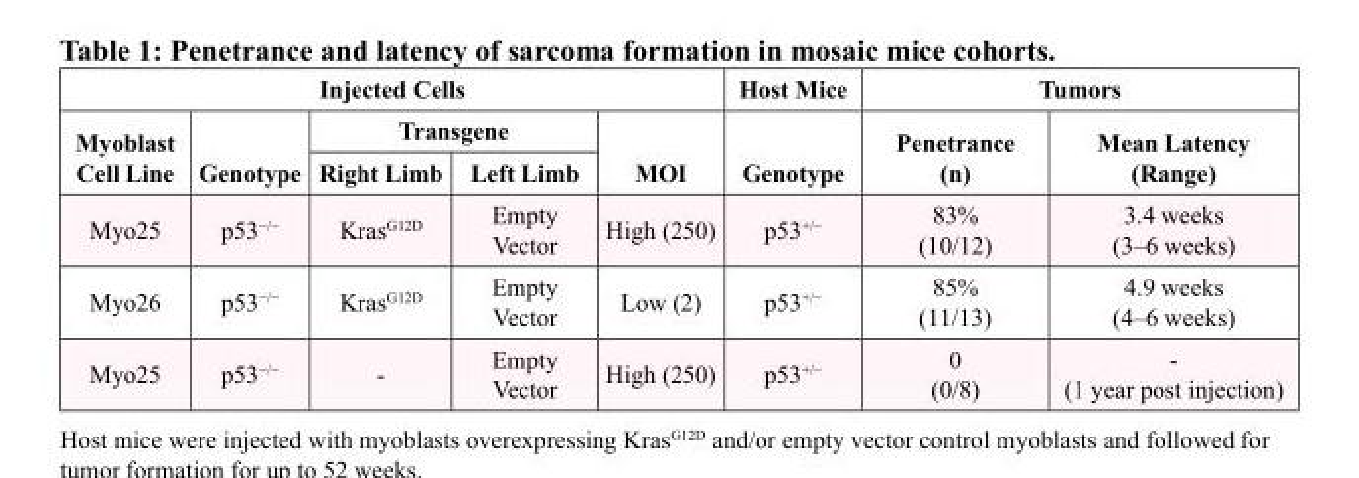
<table><thead><tr><td colspan="5">Injected Cells</td><td rowspan="3">Host Mice Genotype</td><td colspan="2">Tumors</td></tr><tr><td rowspan="2">Myoblast Cell Line</td><td rowspan="2">Genotype</td><td colspan="2">Transgene</td><td rowspan="2">MOI</td><td rowspan="2">Penetrance (n)</td><td rowspan="2">Mean Latency (Range)</td></tr><tr><td>Right Limb</td><td>Left Limb</td></tr></thead><tbody><tr><td>Myo25</td><td>p53<sup>−/−</sup></td><td>Kras<sup>G12D</sup></td><td>Empty Vector</td><td>High (250)</td><td>p53<sup>+/−</sup></td><td>83% (10/12)</td><td>3.4 weeks (3–6 weeks)</td></tr><tr><td>Myo26</td><td>p53<sup>−/−</sup></td><td>Kras<sup>G12D</sup></td><td>Empty Vector</td><td>Low (2)</td><td>p53<sup>+/−</sup></td><td>85% (11/13)</td><td>4.9 weeks (4–6 weeks)</td></tr><tr><td>Myo25</td><td>p53<sup>−/−</sup></td><td>-</td><td>Empty Vector</td><td>High (250)</td><td>p53<sup>+/−</sup></td><td>0 (0/8)</td><td>- (1 year post injection)</td></tr></tbody></table>